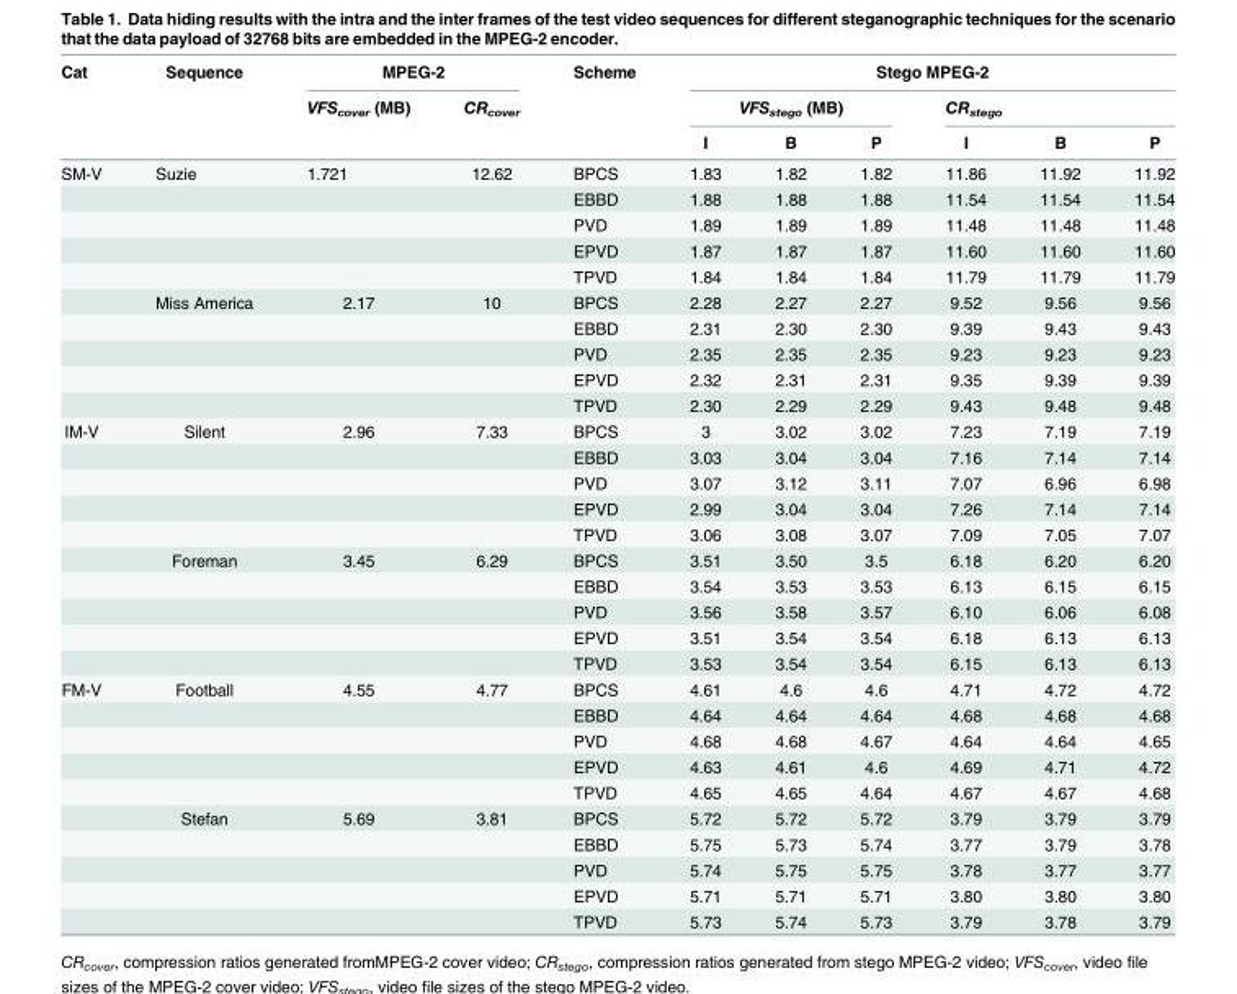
<table><thead><tr><td rowspan="3">Cat</td><td rowspan="3">Sequence</td><td colspan="2">MPEG-2</td><td rowspan="3">Scheme</td><td colspan="6">Stego MPEG-2</td></tr><tr><td rowspan="2">VFS<sub>cover</sub> (MB)</td><td rowspan="2">CR<sub>cover</sub></td><td colspan="3">VFS<sub>stego</sub> (MB)</td><td colspan="3">CR<sub>stego</sub></td></tr><tr><td>I</td><td>B</td><td>P</td><td>I</td><td>B</td><td>P</td></tr></thead><tbody><tr><td rowspan="10">SM-V</td><td>Suzie</td><td>1.721</td><td>12.62</td><td>BPCS</td><td>1.83</td><td>1.82</td><td>1.82</td><td>11.86</td><td>11.92</td><td>11.92</td></tr><tr><td></td><td></td><td></td><td>EBBD</td><td>1.88</td><td>1.88</td><td>1.88</td><td>11.54</td><td>11.54</td><td>11.54</td></tr><tr><td></td><td></td><td></td><td>PVD</td><td>1.89</td><td>1.89</td><td>1.89</td><td>11.48</td><td>11.48</td><td>11.48</td></tr><tr><td></td><td></td><td></td><td>EPVD</td><td>1.87</td><td>1.87</td><td>1.87</td><td>11.60</td><td>11.60</td><td>11.60</td></tr><tr><td></td><td></td><td></td><td>TPVD</td><td>1.84</td><td>1.84</td><td>1.84</td><td>11.79</td><td>11.79</td><td>11.79</td></tr><tr><td>Miss America</td><td>2.17</td><td>10</td><td>BPCS</td><td>2.28</td><td>2.27</td><td>2.27</td><td>9.52</td><td>9.56</td><td>9.56</td></tr><tr><td></td><td></td><td></td><td>EBBD</td><td>2.31</td><td>2.30</td><td>2.30</td><td>9.39</td><td>9.43</td><td>9.43</td></tr><tr><td></td><td></td><td></td><td>PVD</td><td>2.35</td><td>2.35</td><td>2.35</td><td>9.23</td><td>9.23</td><td>9.23</td></tr><tr><td></td><td></td><td></td><td>EPVD</td><td>2.32</td><td>2.31</td><td>2.31</td><td>9.35</td><td>9.39</td><td>9.39</td></tr><tr><td></td><td></td><td></td><td>TPVD</td><td>2.30</td><td>2.29</td><td>2.29</td><td>9.43</td><td>9.48</td><td>9.48</td></tr><tr><td rowspan="10">IM-V</td><td>Silent</td><td>2.96</td><td>7.33</td><td>BPCS</td><td>3</td><td>3.02</td><td>3.02</td><td>7.23</td><td>7.19</td><td>7.19</td></tr><tr><td></td><td></td><td></td><td>EBBD</td><td>3.03</td><td>3.04</td><td>3.04</td><td>7.16</td><td>7.14</td><td>7.14</td></tr><tr><td></td><td></td><td></td><td>PVD</td><td>3.07</td><td>3.12</td><td>3.11</td><td>7.07</td><td>6.96</td><td>6.98</td></tr><tr><td></td><td></td><td></td><td>EPVD</td><td>2.99</td><td>3.04</td><td>3.04</td><td>7.26</td><td>7.14</td><td>7.14</td></tr><tr><td></td><td></td><td></td><td>TPVD</td><td>3.06</td><td>3.08</td><td>3.07</td><td>7.09</td><td>7.05</td><td>7.07</td></tr><tr><td>Foreman</td><td>3.45</td><td>6.29</td><td>BPCS</td><td>3.51</td><td>3.50</td><td>3.5</td><td>6.18</td><td>6.20</td><td>6.20</td></tr><tr><td></td><td></td><td></td><td>EBBD</td><td>3.54</td><td>3.53</td><td>3.53</td><td>6.13</td><td>6.15</td><td>6.15</td></tr><tr><td></td><td></td><td></td><td>PVD</td><td>3.56</td><td>3.58</td><td>3.57</td><td>6.10</td><td>6.06</td><td>6.08</td></tr><tr><td></td><td></td><td></td><td>EPVD</td><td>3.51</td><td>3.54</td><td>3.54</td><td>6.18</td><td>6.13</td><td>6.13</td></tr><tr><td></td><td></td><td></td><td>TPVD</td><td>3.53</td><td>3.54</td><td>3.54</td><td>6.15</td><td>6.13</td><td>6.13</td></tr><tr><td rowspan="10">FM-V</td><td>Football</td><td>4.55</td><td>4.77</td><td>BPCS</td><td>4.61</td><td>4.6</td><td>4.6</td><td>4.71</td><td>4.72</td><td>4.72</td></tr><tr><td></td><td></td><td></td><td>EBBD</td><td>4.64</td><td>4.64</td><td>4.64</td><td>4.68</td><td>4.68</td><td>4.68</td></tr><tr><td></td><td></td><td></td><td>PVD</td><td>4.68</td><td>4.68</td><td>4.67</td><td>4.64</td><td>4.64</td><td>4.65</td></tr><tr><td></td><td></td><td></td><td>EPVD</td><td>4.63</td><td>4.61</td><td>4.6</td><td>4.69</td><td>4.71</td><td>4.72</td></tr><tr><td></td><td></td><td></td><td>TPVD</td><td>4.65</td><td>4.65</td><td>4.64</td><td>4.67</td><td>4.67</td><td>4.68</td></tr><tr><td>Stefan</td><td>5.69</td><td>3.81</td><td>BPCS</td><td>5.72</td><td>5.72</td><td>5.72</td><td>3.79</td><td>3.79</td><td>3.79</td></tr><tr><td></td><td></td><td></td><td>EBBD</td><td>5.75</td><td>5.73</td><td>5.74</td><td>3.77</td><td>3.79</td><td>3.78</td></tr><tr><td></td><td></td><td></td><td>PVD</td><td>5.74</td><td>5.75</td><td>5.75</td><td>3.78</td><td>3.77</td><td>3.77</td></tr><tr><td></td><td></td><td></td><td>EPVD</td><td>5.71</td><td>5.71</td><td>5.71</td><td>3.80</td><td>3.80</td><td>3.80</td></tr><tr><td></td><td></td><td></td><td>TPVD</td><td>5.73</td><td>5.74</td><td>5.73</td><td>3.79</td><td>3.78</td><td>3.79</td></tr></tbody></table>